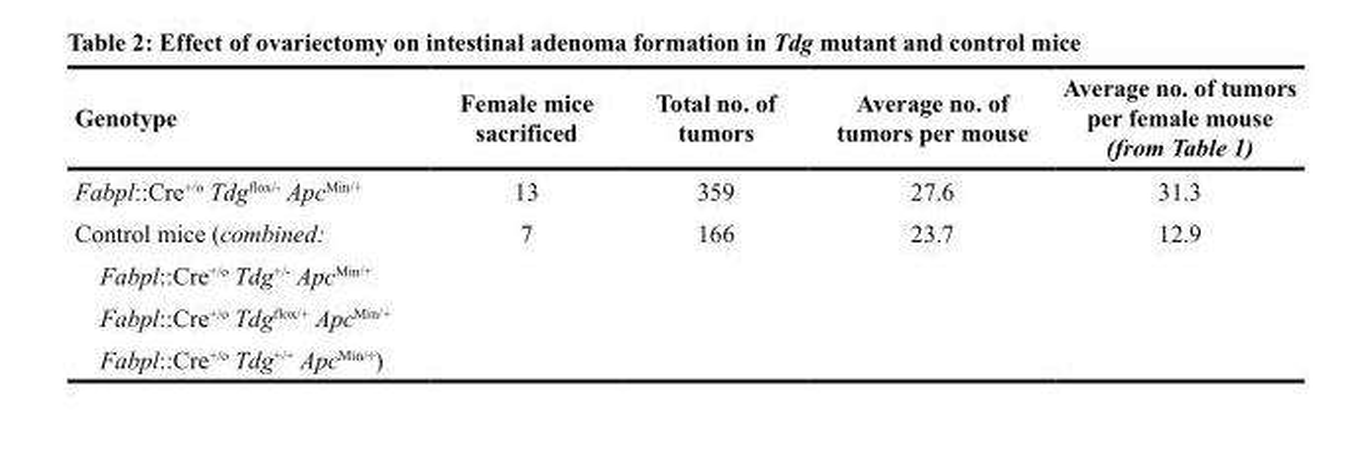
<table><thead><tr><td>Genotype</td><td>Female mice sacrificed</td><td>Total no. of tumors</td><td>Average no. of tumors per mouse</td><td>Average no. of tumors per female mouse (from Table 1)</td></tr></thead><tbody><tr><td>Fabpl::Cre<sup>+/o</sup> Tdg<sup>flox/-</sup> Apc<sup>Min/+</sup></td><td>13</td><td>359</td><td>27.6</td><td>31.3</td></tr><tr><td>Control mice (combined:</td><td>7</td><td>166</td><td>23.7</td><td>12.9</td></tr><tr><td colspan="5">Fabpl::Cre<sup>+/o</sup> Tdg<sup>+/-</sup> Apc<sup>Min/+</sup></td></tr><tr><td colspan="5">Fabpl::Cre<sup>+/o</sup> Tdg<sup>flox/+</sup> Apc<sup>Min/+</sup></td></tr><tr><td>Fabpl::Cre<sup>+/o</sup> Tdg<sup>+/+</sup> Apc<sup>Min/+</sup>)</td><td></td><td></td><td></td><td></td></tr></tbody></table>